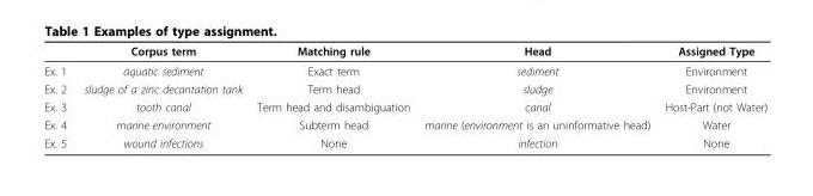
<table><thead><tr><td></td><td>Corpus term</td><td>Matching rule</td><td>Head</td><td>Assigned Type</td></tr></thead><tbody><tr><td>Ex. 1</td><td>aquatic sediment</td><td>Exact term</td><td>sediment</td><td>Environment</td></tr><tr><td>Ex. 2</td><td>sludge of a zinc decantation tank</td><td>Term head</td><td>sludge</td><td>Environment</td></tr><tr><td>Ex. 3</td><td>tooth canal</td><td>Term head and disambiguation</td><td>canal</td><td>Host-Part (not Water)</td></tr><tr><td>Ex. 4</td><td>marine environment</td><td>Subterm head</td><td>marine (environment is an uninformative head)</td><td>Water</td></tr><tr><td>Ex. 5</td><td>wound infections</td><td>None</td><td>infection</td><td>None</td></tr></tbody></table>